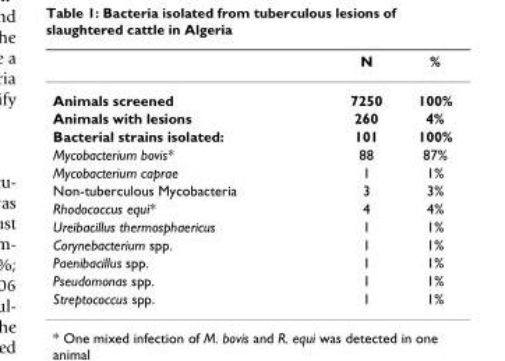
<table><thead><tr><td></td><td>N</td><td>%</td></tr></thead><tbody><tr><td>Animals screened</td><td>7250</td><td>100%</td></tr><tr><td>Animals with lesions</td><td>260</td><td>4%</td></tr><tr><td>Bacterial strains isolated:</td><td>101</td><td>100%</td></tr><tr><td>Mycobacterium bovis*</td><td>88</td><td>87%</td></tr><tr><td>Mycobacterium caprae</td><td>1</td><td>1%</td></tr><tr><td>Non-tuberculous Mycobacteria</td><td>3</td><td>3%</td></tr><tr><td>Rhodococcus equi*</td><td>4</td><td>4%</td></tr><tr><td>Ureibacillus thermosphaericus</td><td>1</td><td>1%</td></tr><tr><td>Corynebacterium spp.</td><td>1</td><td>1%</td></tr><tr><td>Paenibacillus spp.</td><td>1</td><td>1%</td></tr><tr><td>Pseudomonas spp.</td><td>1</td><td>1%</td></tr><tr><td>Streptococcus spp.</td><td>1</td><td>1%</td></tr></tbody></table>